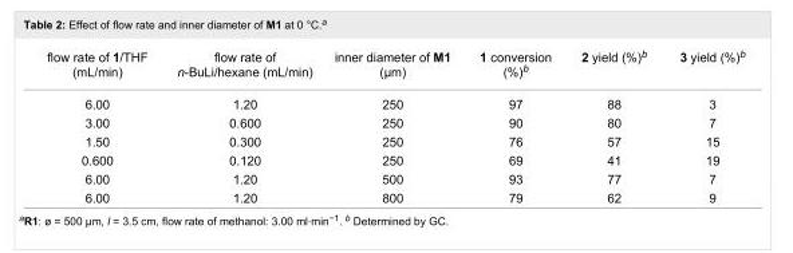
<table><tbody><tr><td>flow rate of 1/THF (mL/min)</td><td>flow rate of n-BuLi/hexane (mL/min)</td><td>inner diameter of M1 (μm)</td><td>1 conversion (%)<sup>b</sup></td><td>2 yield (%)<sup>b</sup></td><td>3 yield (%)<sup>b</sup></td></tr><tr><td>6.00</td><td>1.20</td><td>250</td><td>97</td><td>88</td><td>3</td></tr><tr><td>3.00</td><td>0.600</td><td>250</td><td>90</td><td>80</td><td>7</td></tr><tr><td>1.50</td><td>0.300</td><td>250</td><td>76</td><td>57</td><td>15</td></tr><tr><td>0.600</td><td>0.120</td><td>250</td><td>69</td><td>41</td><td>19</td></tr><tr><td>6.00</td><td>1.20</td><td>500</td><td>93</td><td>77</td><td>7</td></tr><tr><td>6.00</td><td>1.20</td><td>800</td><td>79</td><td>62</td><td>9</td></tr></tbody></table>